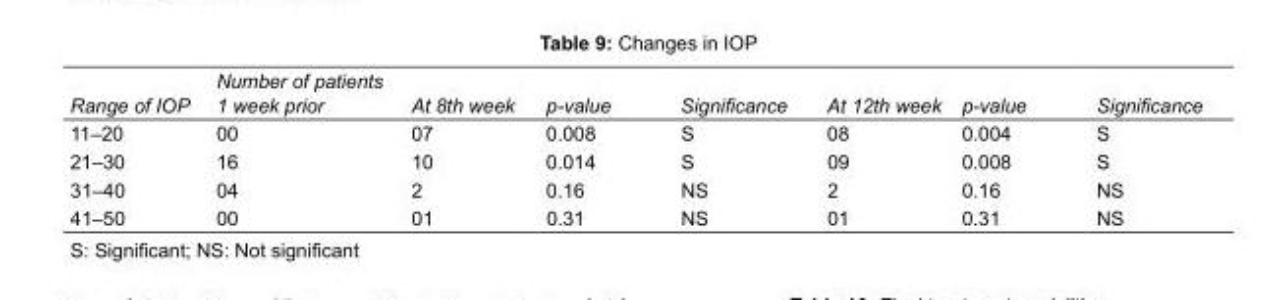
<table><tbody><tr><td>Range of IOP</td><td>Number of patients 1 week prior</td><td>At 8th week</td><td>p-value</td><td>Significance</td><td>At 12th week</td><td>p-value</td><td>Significance</td></tr><tr><td>11–20</td><td>00</td><td>07</td><td>0.008</td><td>S</td><td>08</td><td>0.004</td><td>S</td></tr><tr><td>21–30</td><td>16</td><td>10</td><td>0.014</td><td>S</td><td>09</td><td>0.008</td><td>S</td></tr><tr><td>31–40</td><td>04</td><td>2</td><td>0.16</td><td>NS</td><td>2</td><td>0.16</td><td>NS</td></tr><tr><td>41–50</td><td>00</td><td>01</td><td>0.31</td><td>NS</td><td>01</td><td>0.31</td><td>NS</td></tr></tbody></table>